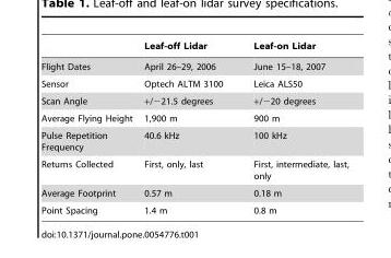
<table><thead><tr><td></td><td>Leaf-off Lidar</td><td>Leaf-on Lidar</td></tr></thead><tbody><tr><td>Flight Dates</td><td>April 26–29, 2006</td><td>June 15–18, 2007</td></tr><tr><td>Sensor</td><td>Optech ALTM 3100</td><td>Leica ALS50</td></tr><tr><td>Scan Angle</td><td>+/−21.5 degrees</td><td>+/−20 degrees</td></tr><tr><td>Average Flying Height</td><td>1,900 m</td><td>900 m</td></tr><tr><td>Pulse Repetition Frequency</td><td>40.6 kHz</td><td>100 kHz</td></tr><tr><td>Returns Collected</td><td>First, only, last</td><td>First, intermediate, last, only</td></tr><tr><td>Average Footprint</td><td>0.57 m</td><td>0.18 m</td></tr><tr><td>Point Spacing</td><td>1.4 m</td><td>0.8 m</td></tr></tbody></table>